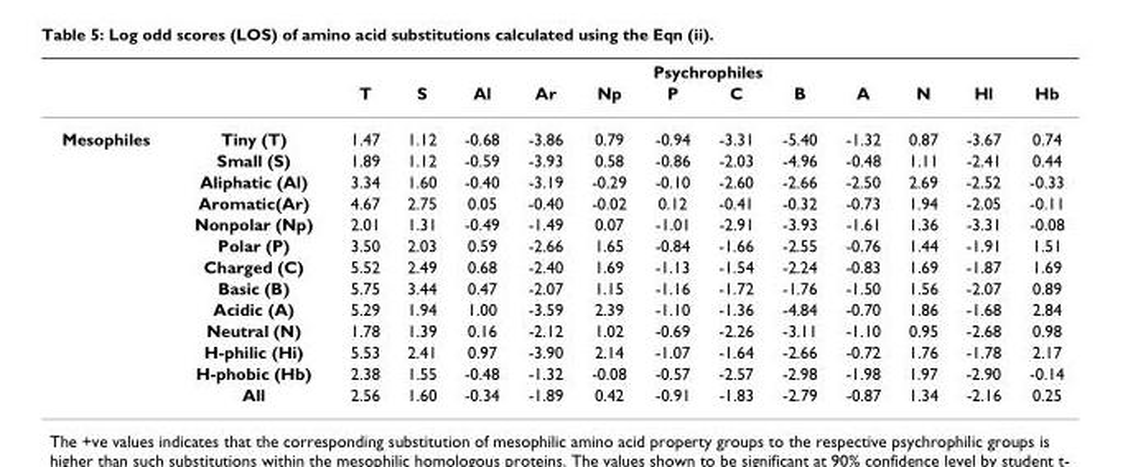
<table><thead><tr><td rowspan="2"></td><td rowspan="2"></td><td colspan="12">Psychrophiles</td></tr><tr><td>T</td><td>S</td><td>Al</td><td>Ar</td><td>Np</td><td>P</td><td>C</td><td>B</td><td>A</td><td>N</td><td>Hl</td><td>Hb</td></tr></thead><tbody><tr><td rowspan="13">Mesophiles</td><td>Tiny (T)</td><td>1.47</td><td>1.12</td><td>-0.68</td><td>-3.86</td><td>0.79</td><td>-0.94</td><td>-3.31</td><td>-5.40</td><td>-1.32</td><td>0.87</td><td>-3.67</td><td>0.74</td></tr><tr><td>Small (S)</td><td>1.89</td><td>1.12</td><td>-0.59</td><td>-3.93</td><td>0.58</td><td>-0.86</td><td>-2.03</td><td>-4.96</td><td>-0.48</td><td>1.11</td><td>-2.41</td><td>0.44</td></tr><tr><td>Aliphatic (Al)</td><td>3.34</td><td>1.60</td><td>-0.40</td><td>-3.19</td><td>-0.29</td><td>-0.10</td><td>-2.60</td><td>-2.66</td><td>-2.50</td><td>2.69</td><td>-2.52</td><td>-0.33</td></tr><tr><td>Aromatic(Ar)</td><td>4.67</td><td>2.75</td><td>0.05</td><td>-0.40</td><td>-0.02</td><td>0.12</td><td>-0.41</td><td>-0.32</td><td>-0.73</td><td>1.94</td><td>-2.05</td><td>-0.11</td></tr><tr><td>Nonpolar (Np)</td><td>2.01</td><td>1.31</td><td>-0.49</td><td>-1.49</td><td>0.07</td><td>-1.01</td><td>-2.91</td><td>-3.93</td><td>-1.61</td><td>1.36</td><td>-3.31</td><td>-0.08</td></tr><tr><td>Polar (P)</td><td>3.50</td><td>2.03</td><td>0.59</td><td>-2.66</td><td>1.65</td><td>-0.84</td><td>-1.66</td><td>-2.55</td><td>-0.76</td><td>1.44</td><td>-1.91</td><td>1.51</td></tr><tr><td>Charged (C)</td><td>5.52</td><td>2.49</td><td>0.68</td><td>-2.40</td><td>1.69</td><td>-1.13</td><td>-1.54</td><td>-2.24</td><td>-0.83</td><td>1.69</td><td>-1.87</td><td>1.69</td></tr><tr><td>Basic (B)</td><td>5.75</td><td>3.44</td><td>0.47</td><td>-2.07</td><td>1.15</td><td>-1.16</td><td>-1.72</td><td>-1.76</td><td>-1.50</td><td>1.56</td><td>-2.07</td><td>0.89</td></tr><tr><td>Acidic (A)</td><td>5.29</td><td>1.94</td><td>1.00</td><td>-3.59</td><td>2.39</td><td>-1.10</td><td>-1.36</td><td>-4.84</td><td>-0.70</td><td>1.86</td><td>-1.68</td><td>2.84</td></tr><tr><td>Neutral (N)</td><td>1.78</td><td>1.39</td><td>0.16</td><td>-2.12</td><td>1.02</td><td>-0.69</td><td>-2.26</td><td>-3.11</td><td>-1.10</td><td>0.95</td><td>-2.68</td><td>0.98</td></tr><tr><td>H-philic (Hi)</td><td>5.53</td><td>2.41</td><td>0.97</td><td>-3.90</td><td>2.14</td><td>-1.07</td><td>-1.64</td><td>-2.66</td><td>-0.72</td><td>1.76</td><td>-1.78</td><td>2.17</td></tr><tr><td>H-phobic (Hb)</td><td>2.38</td><td>1.55</td><td>-0.48</td><td>-1.32</td><td>-0.08</td><td>-0.57</td><td>-2.57</td><td>-2.98</td><td>-1.98</td><td>1.97</td><td>-2.90</td><td>-0.14</td></tr><tr><td>All</td><td>2.56</td><td>1.60</td><td>-0.34</td><td>-1.89</td><td>0.42</td><td>-0.91</td><td>-1.83</td><td>-2.79</td><td>-0.87</td><td>1.34</td><td>-2.16</td><td>0.25</td></tr></tbody></table>